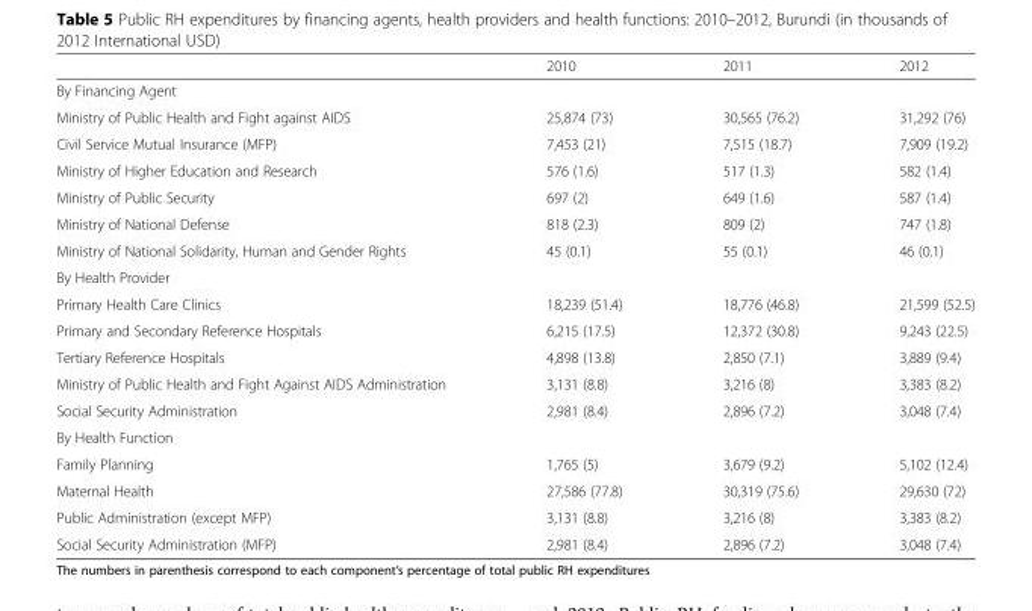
<table><thead><tr><td></td><td>2010</td><td>2011</td><td>2012</td></tr></thead><tbody><tr><td colspan="4">By Financing Agent</td></tr><tr><td>Ministry of Public Health and Fight against AIDS</td><td>25,874 (73)</td><td>30,565 (76.2)</td><td>31,292 (76)</td></tr><tr><td>Civil Service Mutual Insurance (MFP)</td><td>7,453 (21)</td><td>7,515 (18.7)</td><td>7,909 (19.2)</td></tr><tr><td>Ministry of Higher Education and Research</td><td>576 (1.6)</td><td>517 (1.3)</td><td>582 (1.4)</td></tr><tr><td>Ministry of Public Security</td><td>697 (2)</td><td>649 (1.6)</td><td>587 (1.4)</td></tr><tr><td>Ministry of National Defense</td><td>818 (2.3)</td><td>809 (2)</td><td>747 (1.8)</td></tr><tr><td>Ministry of National Solidarity, Human and Gender Rights</td><td>45 (0.1)</td><td>55 (0.1)</td><td>46 (0.1)</td></tr><tr><td colspan="4">By Health Provider</td></tr><tr><td>Primary Health Care Clinics</td><td>18,239 (51.4)</td><td>18,776 (46.8)</td><td>21,599 (52.5)</td></tr><tr><td>Primary and Secondary Reference Hospitals</td><td>6,215 (17.5)</td><td>12,372 (30.8)</td><td>9,243 (22.5)</td></tr><tr><td>Tertiary Reference Hospitals</td><td>4,898 (13.8)</td><td>2,850 (7.1)</td><td>3,889 (9.4)</td></tr><tr><td>Ministry of Public Health and Fight Against AIDS Administration</td><td>3,131 (8.8)</td><td>3,216 (8)</td><td>3,383 (8.2)</td></tr><tr><td>Social Security Administration</td><td>2,981 (8.4)</td><td>2,896 (7.2)</td><td>3,048 (7.4)</td></tr><tr><td colspan="4">By Health Function</td></tr><tr><td>Family Planning</td><td>1,765 (5)</td><td>3,679 (9.2)</td><td>5,102 (12.4)</td></tr><tr><td>Maternal Health</td><td>27,586 (77.8)</td><td>30,319 (75.6)</td><td>29,630 (72)</td></tr><tr><td>Public Administration (except MFP)</td><td>3,131 (8.8)</td><td>3,216 (8)</td><td>3,383 (8.2)</td></tr><tr><td>Social Security Administration (MFP)</td><td>2,981 (8.4)</td><td>2,896 (7.2)</td><td>3,048 (7.4)</td></tr></tbody></table>